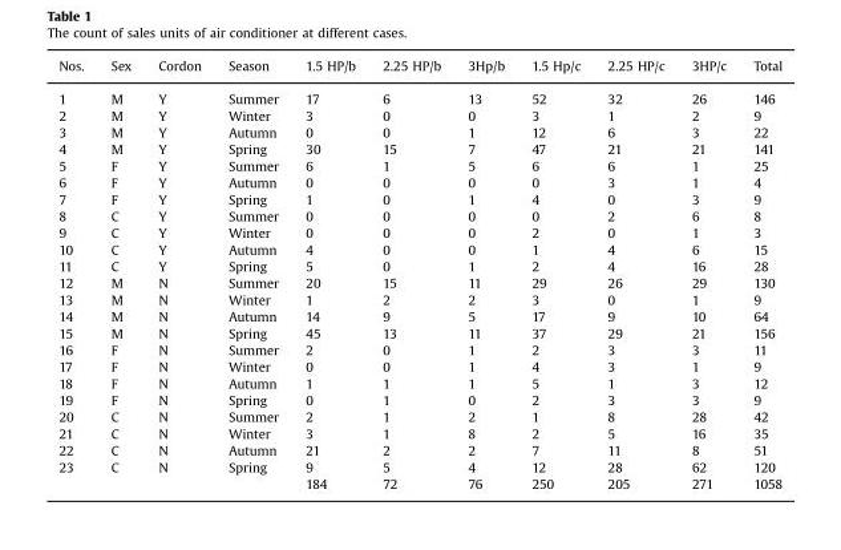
<table><thead><tr><td>Nos.</td><td>Sex</td><td>Cordon</td><td>Season</td><td>1.5 HP/b</td><td>2.25 HP/b</td><td>3Hp/b</td><td>1.5 Hp/c</td><td>2.25 HP/c</td><td>3HP/c</td><td>Total</td></tr></thead><tbody><tr><td>1</td><td>M</td><td>Y</td><td>Summer</td><td>17</td><td>6</td><td>13</td><td>52</td><td>32</td><td>26</td><td>146</td></tr><tr><td>2</td><td>M</td><td>Y</td><td>Winter</td><td>3</td><td>0</td><td>0</td><td>3</td><td>1</td><td>2</td><td>9</td></tr><tr><td>3</td><td>M</td><td>Y</td><td>Autumn</td><td>0</td><td>0</td><td>1</td><td>12</td><td>6</td><td>3</td><td>22</td></tr><tr><td>4</td><td>M</td><td>Y</td><td>Spring</td><td>30</td><td>15</td><td>7</td><td>47</td><td>21</td><td>21</td><td>141</td></tr><tr><td>5</td><td>F</td><td>Y</td><td>Summer</td><td>6</td><td>1</td><td>5</td><td>6</td><td>6</td><td>1</td><td>25</td></tr><tr><td>6</td><td>F</td><td>Y</td><td>Autumn</td><td>0</td><td>0</td><td>0</td><td>0</td><td>3</td><td>1</td><td>4</td></tr><tr><td>7</td><td>F</td><td>Y</td><td>Spring</td><td>1</td><td>0</td><td>1</td><td>4</td><td>0</td><td>3</td><td>9</td></tr><tr><td>8</td><td>C</td><td>Y</td><td>Summer</td><td>0</td><td>0</td><td>0</td><td>0</td><td>2</td><td>6</td><td>8</td></tr><tr><td>9</td><td>C</td><td>Y</td><td>Winter</td><td>0</td><td>0</td><td>0</td><td>2</td><td>0</td><td>1</td><td>3</td></tr><tr><td>10</td><td>C</td><td>Y</td><td>Autumn</td><td>4</td><td>0</td><td>0</td><td>1</td><td>4</td><td>6</td><td>15</td></tr><tr><td>11</td><td>C</td><td>Y</td><td>Spring</td><td>5</td><td>0</td><td>1</td><td>2</td><td>4</td><td>16</td><td>28</td></tr><tr><td>12</td><td>M</td><td>N</td><td>Summer</td><td>20</td><td>15</td><td>11</td><td>29</td><td>26</td><td>29</td><td>130</td></tr><tr><td>13</td><td>M</td><td>N</td><td>Winter</td><td>1</td><td>2</td><td>2</td><td>3</td><td>0</td><td>1</td><td>9</td></tr><tr><td>14</td><td>M</td><td>N</td><td>Autumn</td><td>14</td><td>9</td><td>5</td><td>17</td><td>9</td><td>10</td><td>64</td></tr><tr><td>15</td><td>M</td><td>N</td><td>Spring</td><td>45</td><td>13</td><td>11</td><td>37</td><td>29</td><td>21</td><td>156</td></tr><tr><td>16</td><td>F</td><td>N</td><td>Summer</td><td>2</td><td>0</td><td>1</td><td>2</td><td>3</td><td>3</td><td>11</td></tr><tr><td>17</td><td>F</td><td>N</td><td>Winter</td><td>0</td><td>0</td><td>1</td><td>4</td><td>3</td><td>1</td><td>9</td></tr><tr><td>18</td><td>F</td><td>N</td><td>Autumn</td><td>1</td><td>1</td><td>1</td><td>5</td><td>1</td><td>3</td><td>12</td></tr><tr><td>19</td><td>F</td><td>N</td><td>Spring</td><td>0</td><td>1</td><td>0</td><td>2</td><td>3</td><td>3</td><td>9</td></tr><tr><td>20</td><td>C</td><td>N</td><td>Summer</td><td>2</td><td>1</td><td>2</td><td>1</td><td>8</td><td>28</td><td>42</td></tr><tr><td>21</td><td>C</td><td>N</td><td>Winter</td><td>3</td><td>1</td><td>8</td><td>2</td><td>5</td><td>16</td><td>35</td></tr><tr><td>22</td><td>C</td><td>N</td><td>Autumn</td><td>21</td><td>2</td><td>2</td><td>7</td><td>11</td><td>8</td><td>51</td></tr><tr><td rowspan="2">23</td><td>C</td><td>N</td><td>Spring</td><td>9</td><td>5</td><td>4</td><td>12</td><td>28</td><td>62</td><td>120</td></tr><tr><td></td><td></td><td></td><td>184</td><td>72</td><td>76</td><td>250</td><td>205</td><td>271</td><td>1058</td></tr></tbody></table>